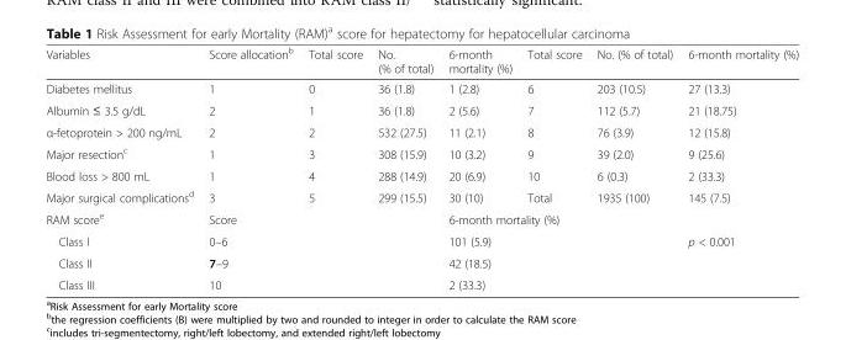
<table><thead><tr><td>Variables</td><td>Score allocation<sup>b</sup></td><td>Total score</td><td>No. (% of total)</td><td>6-month mortality (%)</td><td>Total score</td><td>No. (% of total)</td><td>6-month mortality (%)</td></tr></thead><tbody><tr><td>Diabetes mellitus</td><td>1</td><td>0</td><td>36 (1.8)</td><td>1 (2.8)</td><td>6</td><td>203 (10.5)</td><td>27 (13.3)</td></tr><tr><td>Albumin ≤ 3.5 g/dL</td><td>2</td><td>1</td><td>36 (1.8)</td><td>2 (5.6)</td><td>7</td><td>112 (5.7)</td><td>21 (18.75)</td></tr><tr><td>α-fetoprotein &gt; 200 ng/mL</td><td>2</td><td>2</td><td>532 (27.5)</td><td>11 (2.1)</td><td>8</td><td>76 (3.9)</td><td>12 (15.8)</td></tr><tr><td>Major resection<sup>c</sup></td><td>1</td><td>3</td><td>308 (15.9)</td><td>10 (3.2)</td><td>9</td><td>39 (2.0)</td><td>9 (25.6)</td></tr><tr><td>Blood loss &gt; 800 mL</td><td>1</td><td>4</td><td>288 (14.9)</td><td>20 (6.9)</td><td>10</td><td>6 (0.3)</td><td>2 (33.3)</td></tr><tr><td>Major surgical complications<sup>d</sup></td><td>3</td><td>5</td><td>299 (15.5)</td><td>30 (10)</td><td>Total</td><td>1935 (100)</td><td>145 (7.5)</td></tr><tr><td>RAM score<sup>e</sup></td><td colspan="3">Score</td><td colspan="4">6-month mortality (%)</td></tr><tr><td>Class I</td><td colspan="3">0–6</td><td colspan="3">101 (5.9)</td><td rowspan="3">p &lt; 0.001</td></tr><tr><td>Class II</td><td colspan="3">7–9</td><td colspan="3">42 (18.5)</td></tr><tr><td>Class III</td><td colspan="3">10</td><td colspan="3">2 (33.3)</td></tr></tbody></table>